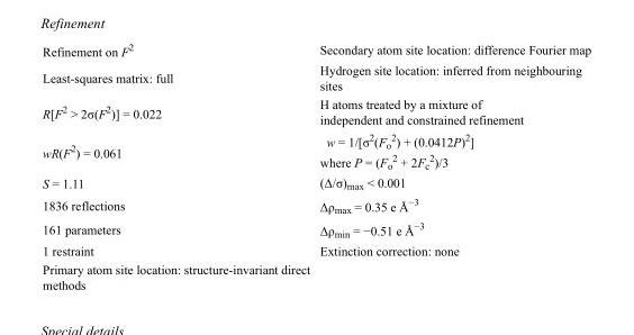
<table><tbody><tr><td>Refinement on F<sup>2</sup></td><td>Secondary atom site location: difference Fourier map</td></tr><tr><td>Least-squares matrix: full</td><td>Hydrogen site location: inferred from neighbouring sites</td></tr><tr><td>R[F<sup>2</sup> &gt; 2σ(F<sup>2</sup>)] = 0.022</td><td>H atoms treated by a mixture of independent and constrained refinement</td></tr><tr><td>wR(F<sup>2</sup>) = 0.061</td><td>w = 1/[σ<sup>2</sup>(F<sub>o</sub> <sup>2</sup>) + (0.0412P)<sup>2</sup>] where P = (F<sub>o</sub> <sup>2</sup> + 2F<sub>c</sub> <sup>2</sup>)/3</td></tr><tr><td>S = 1.11</td><td>(Δ/σ)<sub>max</sub> &lt; 0.001</td></tr><tr><td>1836 reflections</td><td>Δρ<sub>max</sub> = 0.35 e Å<sup>−3</sup></td></tr><tr><td>161 parameters</td><td>Δρ<sub>min</sub> = −0.51 e Å<sup>−3</sup></td></tr><tr><td>1 restraint</td><td>Extinction correction: none</td></tr><tr><td>Primary atom site location: structure-invariant direct methods</td><td></td></tr></tbody></table>